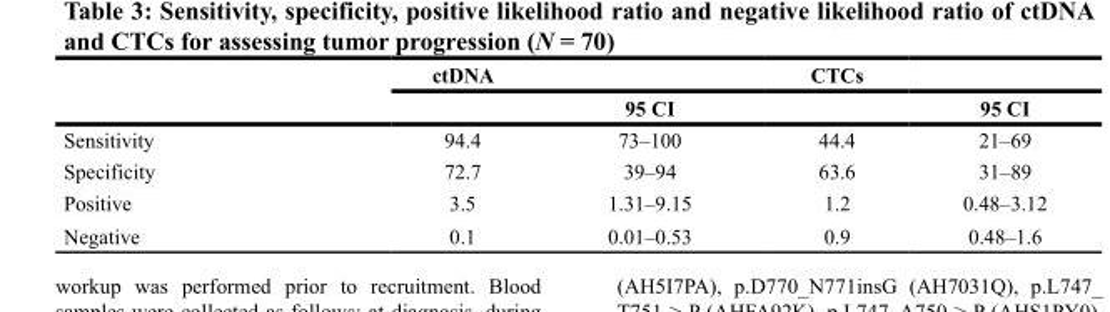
<table><thead><tr><td rowspan="2"></td><td rowspan="2">ctDNA</td><td rowspan="2">95 CI</td><td rowspan="2">CTCs</td><td rowspan="2">95 CI</td></tr><tr></tr></thead><tbody><tr><td>Sensitivity</td><td>94.4</td><td>73–100</td><td>44.4</td><td>21–69</td></tr><tr><td>Specificity</td><td>72.7</td><td>39–94</td><td>63.6</td><td>31–89</td></tr><tr><td>Positive</td><td>3.5</td><td>1.31–9.15</td><td>1.2</td><td>0.48–3.12</td></tr><tr><td>Negative</td><td>0.1</td><td>0.01–0.53</td><td>0.9</td><td>0.48–1.6</td></tr></tbody></table>